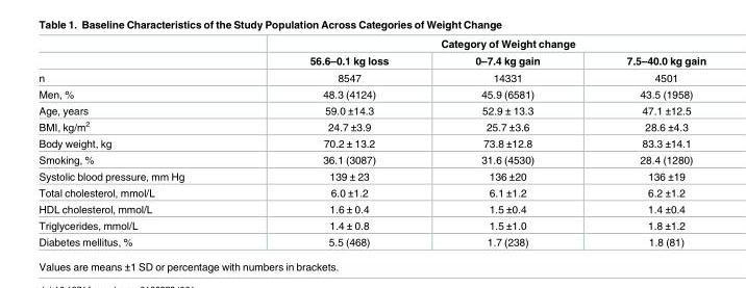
<table><thead><tr><td rowspan="2"></td><td colspan="3">Category of Weight change</td></tr><tr><td>56.6–0.1 kg loss</td><td>0–7.4 kg gain</td><td>7.5–40.0 kg gain</td></tr></thead><tbody><tr><td>n</td><td>8547</td><td>14331</td><td>4501</td></tr><tr><td>Men, %</td><td>48.3 (4124)</td><td>45.9 (6581)</td><td>43.5 (1958)</td></tr><tr><td>Age, years</td><td>59.0 ±14.3</td><td>52.9 ± 13.3</td><td>47.1 ±12.5</td></tr><tr><td>BMI, kg/m<sup>2</sup></td><td>24.7 ±3.9</td><td>25.7 ±3.6</td><td>28.6 ±4.3</td></tr><tr><td>Body weight, kg</td><td>70.2 ± 13.2</td><td>73.8 ±12.8</td><td>83.3 ±14.1</td></tr><tr><td>Smoking, %</td><td>36.1 (3087)</td><td>31.6 (4530)</td><td>28.4 (1280)</td></tr><tr><td>Systolic blood pressure, mm Hg</td><td>139 ± 23</td><td>136 ±20</td><td>136 ±19</td></tr><tr><td>Total cholesterol, mmol/L</td><td>6.0 ±1.2</td><td>6.1 ±1.2</td><td>6.2 ±1.2</td></tr><tr><td>HDL cholesterol, mmol/L</td><td>1.6 ± 0.4</td><td>1.5 ±0.4</td><td>1.4 ±0.4</td></tr><tr><td>Triglycerides, mmol/L</td><td>1.4 ± 0.8</td><td>1.5 ±1.0</td><td>1.8 ±1.2</td></tr><tr><td>Diabetes mellitus, %</td><td>5.5 (468)</td><td>1.7 (238)</td><td>1.8 (81)</td></tr></tbody></table>